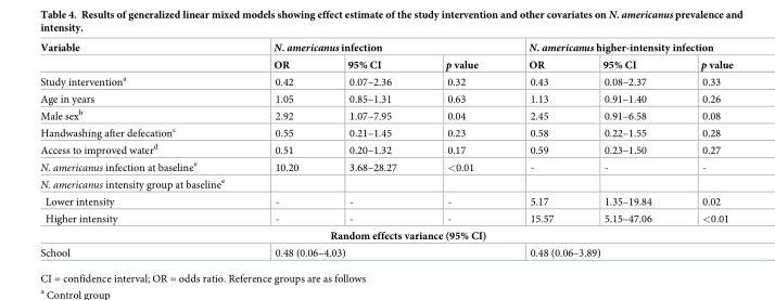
<table><thead><tr><td rowspan="2">Variable</td><td colspan="3">N. americanus infection</td><td colspan="3">N. americanus higher-intensity infection</td></tr><tr><td>OR</td><td>95% CI</td><td>p value</td><td>OR</td><td>95% CI</td><td>p value</td></tr></thead><tbody><tr><td>Study intervention<sup>a</sup></td><td>0.42</td><td>0.07–2.36</td><td>0.32</td><td>0.43</td><td>0.08–2.37</td><td>0.33</td></tr><tr><td>Age in years</td><td>1.05</td><td>0.85–1.31</td><td>0.63</td><td>1.13</td><td>0.91–1.40</td><td>0.26</td></tr><tr><td>Male sex<sup>b</sup></td><td>2.92</td><td>1.07–7.95</td><td>0.04</td><td>2.45</td><td>0.91–6.58</td><td>0.08</td></tr><tr><td>Handwashing after defecation<sup>c</sup></td><td>0.55</td><td>0.21–1.45</td><td>0.23</td><td>0.58</td><td>0.22–1.55</td><td>0.28</td></tr><tr><td>Access to improved water<sup>d</sup></td><td>0.51</td><td>0.20–1.32</td><td>0.17</td><td>0.59</td><td>0.23–1.50</td><td>0.27</td></tr><tr><td>N. americanus infection at baseline<sup>e</sup></td><td>10.20</td><td>3.68–28.27</td><td>&lt;0.01</td><td>-</td><td>-</td><td>-</td></tr><tr><td colspan="7">N. americanus intensity group at baseline<sup>e</sup></td></tr><tr><td>Lower intensity</td><td>-</td><td>-</td><td>-</td><td>5.17</td><td>1.35–19.84</td><td>0.02</td></tr><tr><td>Higher intensity</td><td>-</td><td>-</td><td>-</td><td>15.57</td><td>5.15–47.06</td><td>&lt;0.01</td></tr><tr><td colspan="7">Random effects variance (95% CI)</td></tr><tr><td>School</td><td colspan="3">0.48 (0.06–4.03)</td><td colspan="3">0.48 (0.06–3.89)</td></tr></tbody></table>